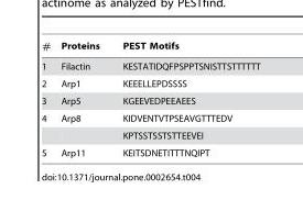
<table><thead><tr><td>#</td><td>Proteins</td><td>PEST Motifs</td></tr></thead><tbody><tr><td>1</td><td>Filactin</td><td>KESTATIDQFPSPPTSNISTTSTTTTTT</td></tr><tr><td>2</td><td>Arp1</td><td>KEEELLEPDSSSS</td></tr><tr><td>3</td><td>Arp5</td><td>KGEEVEDPEEAEES</td></tr><tr><td rowspan="2">4</td><td>Arp8</td><td>KIDVENTVTPSEAVGTTTEDV</td></tr><tr><td></td><td>KPTSSTSSTSTTEEVEI</td></tr><tr><td>5</td><td>Arp11</td><td>KEITSDNETITTTNQIPT</td></tr></tbody></table>